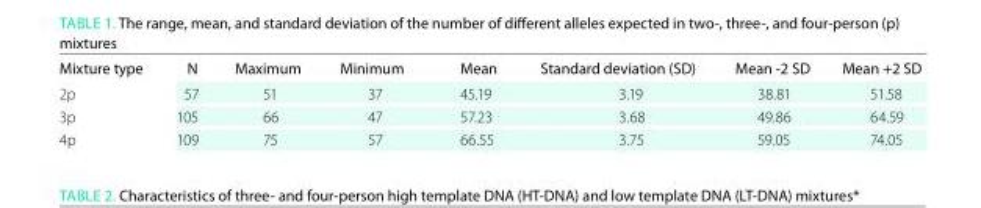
<table><thead><tr><td>Mixture type</td><td>N</td><td>Maximum</td><td>Minimum</td><td>Mean</td><td>standard deviation (sD)</td><td>Mean -2 sD</td><td>Mean +2 sD</td></tr></thead><tbody><tr><td>2p</td><td>57</td><td>51</td><td>37</td><td>45.19</td><td>3.19</td><td>38.81</td><td>51.58</td></tr><tr><td>3p</td><td>105</td><td>66</td><td>47</td><td>57.23</td><td>3.68</td><td>49.86</td><td>64.59</td></tr><tr><td>4p</td><td>109</td><td>75</td><td>57</td><td>66.55</td><td>3.75</td><td>59.05</td><td>74.05</td></tr></tbody></table>